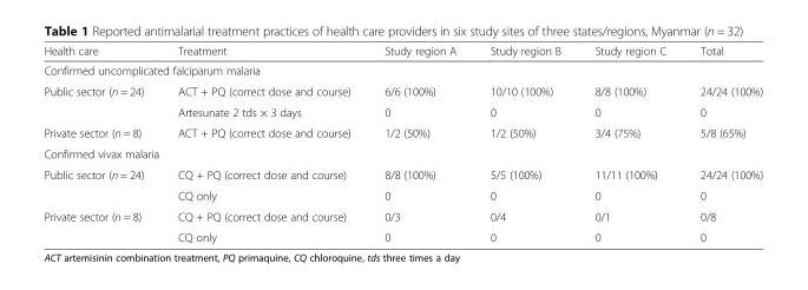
<table><thead><tr><td>Health care</td><td>Treatment</td><td>Study region A</td><td>Study region B</td><td>Study region C</td><td>Total</td></tr></thead><tbody><tr><td colspan="6">Confirmed uncomplicated falciparum malaria</td></tr><tr><td rowspan="2">Public sector (n = 24)</td><td>ACT + PQ (correct dose and course)</td><td>6/6 (100%)</td><td>10/10 (100%)</td><td>8/8 (100%)</td><td>24/24 (100%)</td></tr><tr><td>Artesunate 2 tds × 3 days</td><td>0</td><td>0</td><td>0</td><td>0</td></tr><tr><td>Private sector (n = 8)</td><td>ACT + PQ (correct dose and course)</td><td>1/2 (50%)</td><td>1/2 (50%)</td><td>3/4 (75%)</td><td>5/8 (65%)</td></tr><tr><td colspan="6">Confirmed vivax malaria</td></tr><tr><td rowspan="2">Public sector (n = 24)</td><td>CQ + PQ (correct dose and course)</td><td>8/8 (100%)</td><td>5/5 (100%)</td><td>11/11 (100%)</td><td>24/24 (100%)</td></tr><tr><td>CQ only</td><td>0</td><td>0</td><td>0</td><td>0</td></tr><tr><td rowspan="2">Private sector (n = 8)</td><td>CQ + PQ (correct dose and course)</td><td>0/3</td><td>0/4</td><td>0/1</td><td>0/8</td></tr><tr><td>CQ only</td><td>0</td><td>0</td><td>0</td><td>0</td></tr></tbody></table>